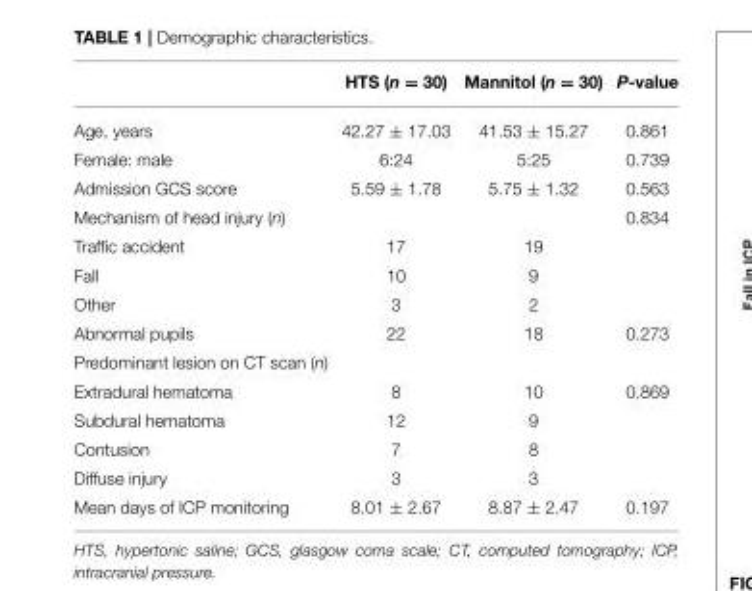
<table><thead><tr><td></td><td>HTS (n = 30)</td><td>Mannitol (n = 30)</td><td>P-value</td></tr></thead><tbody><tr><td>Age, years</td><td>42.27 ± 17.03</td><td>41.53 ± 15.27</td><td>0.861</td></tr><tr><td>Female: male</td><td>6:24</td><td>5:25</td><td>0.739</td></tr><tr><td>Admission GCS score</td><td>5.59 ± 1.78</td><td>5.75 ± 1.32</td><td>0.563</td></tr><tr><td>Mechanism of head injury (n)</td><td></td><td></td><td>0.834</td></tr><tr><td>Traffic accident</td><td>17</td><td>19</td><td></td></tr><tr><td>Fall</td><td>10</td><td>9</td><td></td></tr><tr><td>Other</td><td>3</td><td>2</td><td></td></tr><tr><td>Abnormal pupils</td><td>22</td><td>18</td><td>0.273</td></tr><tr><td colspan="4">Predominant lesion on CT scan (n)</td></tr><tr><td>Extradural hematoma</td><td>8</td><td>10</td><td>0.869</td></tr><tr><td>Subdural hematoma</td><td>12</td><td>9</td><td></td></tr><tr><td>Contusion</td><td>7</td><td>8</td><td></td></tr><tr><td>Diffuse injury</td><td>3</td><td>3</td><td></td></tr><tr><td>Mean days of ICP monitoring</td><td>8.01 ± 2.67</td><td>8.87 ± 2.47</td><td>0.197</td></tr></tbody></table>